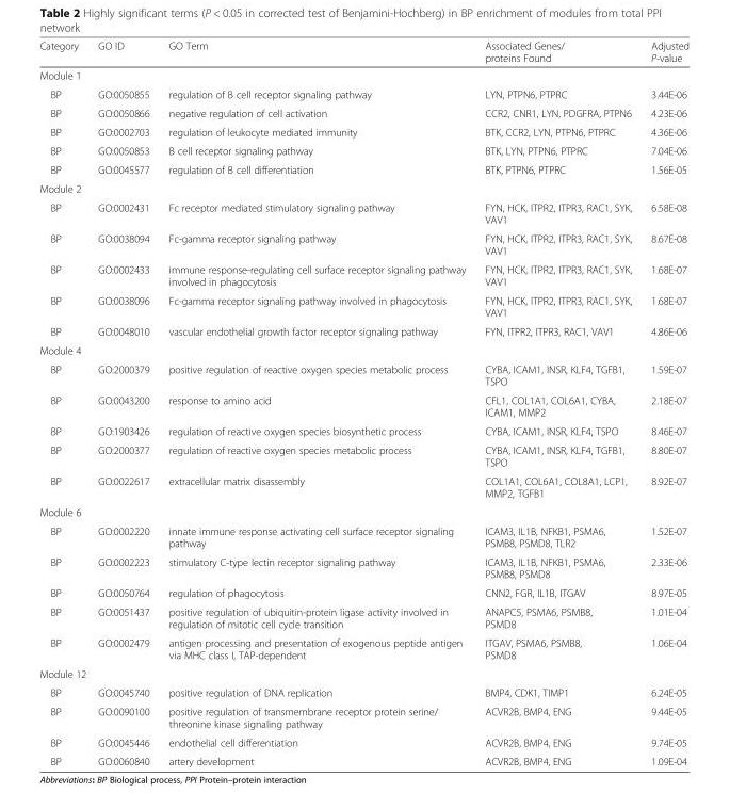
<table><thead><tr><td>Category</td><td>GO ID</td><td>GO Term</td><td>Associated Genes/ proteins Found</td><td>Adjusted P-value</td></tr></thead><tbody><tr><td colspan="5">Module 1</td></tr><tr><td>BP</td><td>GO:0050855</td><td>regulation of B cell receptor signaling pathway</td><td>LYN, PTPN6, PTPRC</td><td>3.44E-06</td></tr><tr><td>BP</td><td>GO:0050866</td><td>negative regulation of cell activation</td><td>CCR2, CNR1, LYN, PDGFRA, PTPN6</td><td>4.23E-06</td></tr><tr><td>BP</td><td>GO:0002703</td><td>regulation of leukocyte mediated immunity</td><td>BTK, CCR2, LYN, PTPN6, PTPRC</td><td>4.36E-06</td></tr><tr><td>BP</td><td>GO:0050853</td><td>B cell receptor signaling pathway</td><td>BTK, LYN, PTPN6, PTPRC</td><td>7.04E-06</td></tr><tr><td>BP</td><td>GO:0045577</td><td>regulation of B cell differentiation</td><td>BTK, PTPN6, PTPRC</td><td>1.56E-05</td></tr><tr><td colspan="5">Module 2</td></tr><tr><td>BP</td><td>GO:0002431</td><td>Fc receptor mediated stimulatory signaling pathway</td><td>FYN, HCK, ITPR2, ITPR3, RAC1, SYK, VAV1</td><td>6.58E-08</td></tr><tr><td>BP</td><td>GO:0038094</td><td>Fc-gamma receptor signaling pathway</td><td>FYN, HCK, ITPR2, ITPR3, RAC1, SYK, VAV1</td><td>8.67E-08</td></tr><tr><td>BP</td><td>GO:0002433</td><td>immune response-regulating cell surface receptor signaling pathway involved in phagocytosis</td><td>FYN, HCK, ITPR2, ITPR3, RAC1, SYK, VAV1</td><td>1.68E-07</td></tr><tr><td>BP</td><td>GO:0038096</td><td>Fc-gamma receptor signaling pathway involved in phagocytosis</td><td>FYN, HCK, ITPR2, ITPR3, RAC1, SYK, VAV1</td><td>1.68E-07</td></tr><tr><td>BP</td><td>GO:0048010</td><td>vascular endothelial growth factor receptor signaling pathway</td><td>FYN, ITPR2, ITPR3, RAC1, VAV1</td><td>4.86E-06</td></tr><tr><td colspan="5">Module 4</td></tr><tr><td>BP</td><td>GO:2000379</td><td>positive regulation of reactive oxygen species metabolic process</td><td>CYBA, ICAM1, INSR, KLF4, TGFB1, TSPO</td><td>1.59E-07</td></tr><tr><td>BP</td><td>GO:0043200</td><td>response to amino acid</td><td>CFL1, COL1A1, COL6A1, CYBA, ICAM1, MMP2</td><td>2.18E-07</td></tr><tr><td>BP</td><td>GO:1903426</td><td>regulation of reactive oxygen species biosynthetic process</td><td>CYBA, ICAM1, INSR, KLF4, TSPO</td><td>8.46E-07</td></tr><tr><td>BP</td><td>GO:2000377</td><td>regulation of reactive oxygen species metabolic process</td><td>CYBA, ICAM1, INSR, KLF4, TGFB1, TSPO</td><td>8.80E-07</td></tr><tr><td>BP</td><td>GO:0022617</td><td>extracellular matrix disassembly</td><td>COL1A1, COL6A1, COL8A1, LCP1, MMP2, TGFB1</td><td>8.92E-07</td></tr><tr><td colspan="5">Module 6</td></tr><tr><td>BP</td><td>GO:0002220</td><td>innate immune response activating cell surface receptor signaling pathway</td><td>ICAM3, IL1B, NFKB1, PSMA6, PSMB8, PSMD8, TLR2</td><td>1.52E-07</td></tr><tr><td>BP</td><td>GO:0002223</td><td>stimulatory C-type lectin receptor signaling pathway</td><td>ICAM3, IL1B, NFKB1, PSMA6, PSMB8, PSMD8</td><td>2.33E-06</td></tr><tr><td>BP</td><td>GO:0050764</td><td>regulation of phagocytosis</td><td>CNN2, FGR, IL1B, ITGAV</td><td>8.97E-05</td></tr><tr><td>BP</td><td>GO:0051437</td><td>positive regulation of ubiquitin-protein ligase activity involved in regulation of mitotic cell cycle transition</td><td>ANAPC5, PSMA6, PSMB8, PSMD8</td><td>1.01E-04</td></tr><tr><td>BP</td><td>GO:0002479</td><td>antigen processing and presentation of exogenous peptide antigen via MHC class I, TAP-dependent</td><td>ITGAV, PSMA6, PSMB8, PSMD8</td><td>1.06E-04</td></tr><tr><td colspan="5">Module 12</td></tr><tr><td>BP</td><td>GO:0045740</td><td>positive regulation of DNA replication</td><td>BMP4, CDK1, TIMP1</td><td>6.24E-05</td></tr><tr><td>BP</td><td>GO:0090100</td><td>positive regulation of transmembrane receptor protein serine/ threonine kinase signaling pathway</td><td>ACVR2B, BMP4, ENG</td><td>9.44E-05</td></tr><tr><td>BP</td><td>GO:0045446</td><td>endothelial cell differentiation</td><td>ACVR2B, BMP4, ENG</td><td>9.74E-05</td></tr><tr><td>BP</td><td>GO:0060840</td><td>artery development</td><td>ACVR2B, BMP4, ENG</td><td>1.09E-04</td></tr></tbody></table>